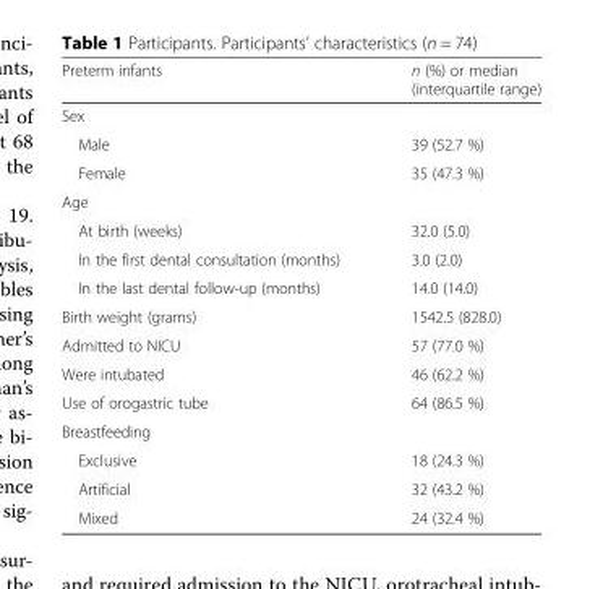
<table><thead><tr><td>Preterm infants</td><td>n (%) or median (interquartile range)</td></tr></thead><tbody><tr><td colspan="2">Sex</td></tr><tr><td>Male</td><td>39 (52.7 %)</td></tr><tr><td>Female</td><td>35 (47.3 %)</td></tr><tr><td colspan="2">Age</td></tr><tr><td>At birth (weeks)</td><td>32.0 (5.0)</td></tr><tr><td>In the first dental consultation (months)</td><td>3.0 (2.0)</td></tr><tr><td>In the last dental follow-up (months)</td><td>14.0 (14.0)</td></tr><tr><td>Birth weight (grams)</td><td>1542.5 (828.0)</td></tr><tr><td>Admitted to NICU</td><td>57 (77.0 %)</td></tr><tr><td>Were intubated</td><td>46 (62.2 %)</td></tr><tr><td>Use of orogastric tube</td><td>64 (86.5 %)</td></tr><tr><td colspan="2">Breastfeeding</td></tr><tr><td>Exclusive</td><td>18 (24.3 %)</td></tr><tr><td>Artificial</td><td>32 (43.2 %)</td></tr><tr><td>Mixed</td><td>24 (32.4 %)</td></tr></tbody></table>